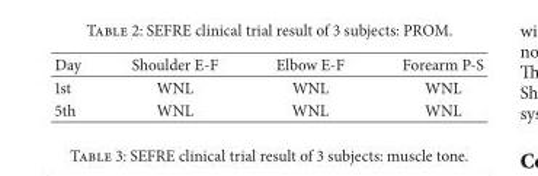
<table><thead><tr><td>Day</td><td>Shoulder E-F</td><td>Elbow E-F</td><td>Forearm P-S</td></tr></thead><tbody><tr><td>1st</td><td>WNL</td><td>WNL</td><td>WNL</td></tr><tr><td>5th</td><td>WNL</td><td>WNL</td><td>WNL</td></tr></tbody></table>